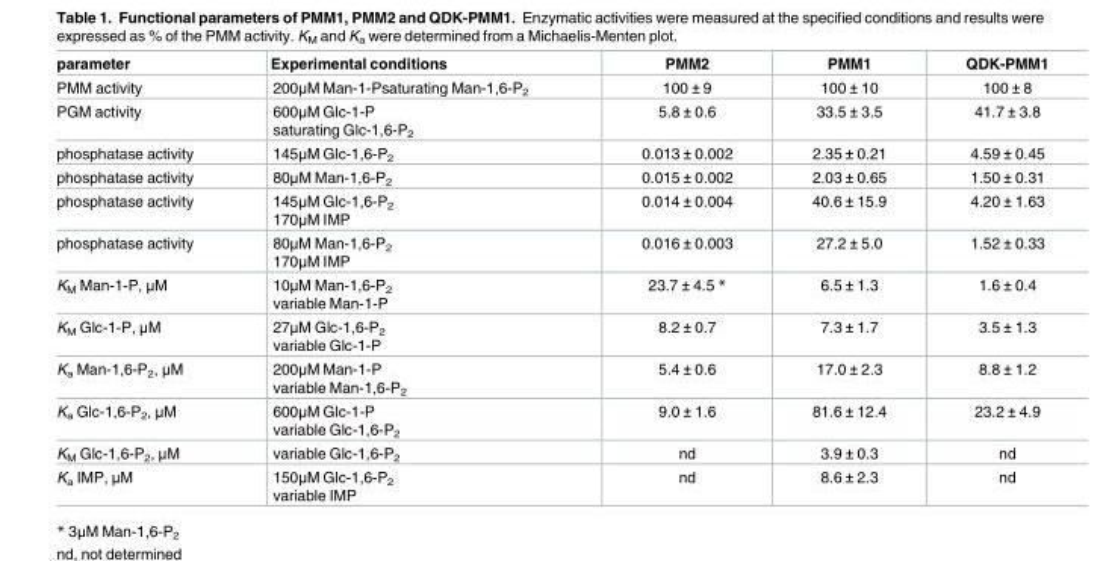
<table><thead><tr><td>parameter</td><td>Experimental conditions</td><td>PMM2</td><td>PMM1</td><td>QDK-PMM1</td></tr></thead><tbody><tr><td>PMM activity</td><td>200μM Man-1-Psaturating Man-1,6-P<sub>2</sub></td><td>100 ± 9</td><td>100 ± 10</td><td>100 ± 8</td></tr><tr><td>PGM activity</td><td>600μM Glc-1-P saturating Glc-1,6-P<sub>2</sub></td><td>5.8 ± 0.6</td><td>33.5 ± 3.5</td><td>41.7 ± 3.8</td></tr><tr><td>phosphatase activity</td><td>145μM Glc-1,6-P<sub>2</sub></td><td>0.013 ± 0.002</td><td>2.35 ± 0.21</td><td>4.59 ± 0.45</td></tr><tr><td>phosphatase activity</td><td>80μM Man-1,6-P<sub>2</sub></td><td>0.015 ± 0.002</td><td>2.03 ± 0.65</td><td>1.50 ± 0.31</td></tr><tr><td>phosphatase activity</td><td>145μM Glc-1,6-P<sub>2</sub> 170μM IMP</td><td>0.014 ± 0.004</td><td>40.6 ± 15.9</td><td>4.20 ± 1.63</td></tr><tr><td>phosphatase activity</td><td>80μM Man-1,6-P<sub>2</sub> 170μM IMP</td><td>0.016 ± 0.003</td><td>27.2 ± 5.0</td><td>1.52 ± 0.33</td></tr><tr><td>K<sub>M</sub> Man-1-P, μM</td><td>10μM Man-1,6-P<sub>2</sub> variable Man-1-P</td><td>23.7 ± 4.5 *</td><td>6.5 ± 1.3</td><td>1.6 ± 0.4</td></tr><tr><td>K<sub>M</sub> Glc-1-P, μM</td><td>27μM Glc-1,6-P<sub>2</sub> variable Glc-1-P</td><td>8.2 ± 0.7</td><td>7.3 ± 1.7</td><td>3.5 ± 1.3</td></tr><tr><td>K<sub>a</sub> Man-1,6-P<sub>2</sub>, μM</td><td>200μM Man-1-P variable Man-1,6-P<sub>2</sub></td><td>5.4 ± 0.6</td><td>17.0 ± 2.3</td><td>8.8 ± 1.2</td></tr><tr><td>K<sub>a</sub> Glc-1,6-P<sub>2</sub>, μM</td><td>600μM Glc-1-P variable Glc-1,6-P<sub>2</sub></td><td>9.0 ± 1.6</td><td>81.6 ± 12.4</td><td>23.2 ± 4.9</td></tr><tr><td>K<sub>M</sub> Glc-1,6-P<sub>2</sub>, μM</td><td>variable Glc-1,6-P<sub>2</sub></td><td>nd</td><td>3.9 ± 0.3</td><td>nd</td></tr><tr><td>K<sub>a</sub> IMP, μM</td><td>150μM Glc-1,6-P<sub>2</sub> variable IMP</td><td>nd</td><td>8.6 ± 2.3</td><td>nd</td></tr></tbody></table>